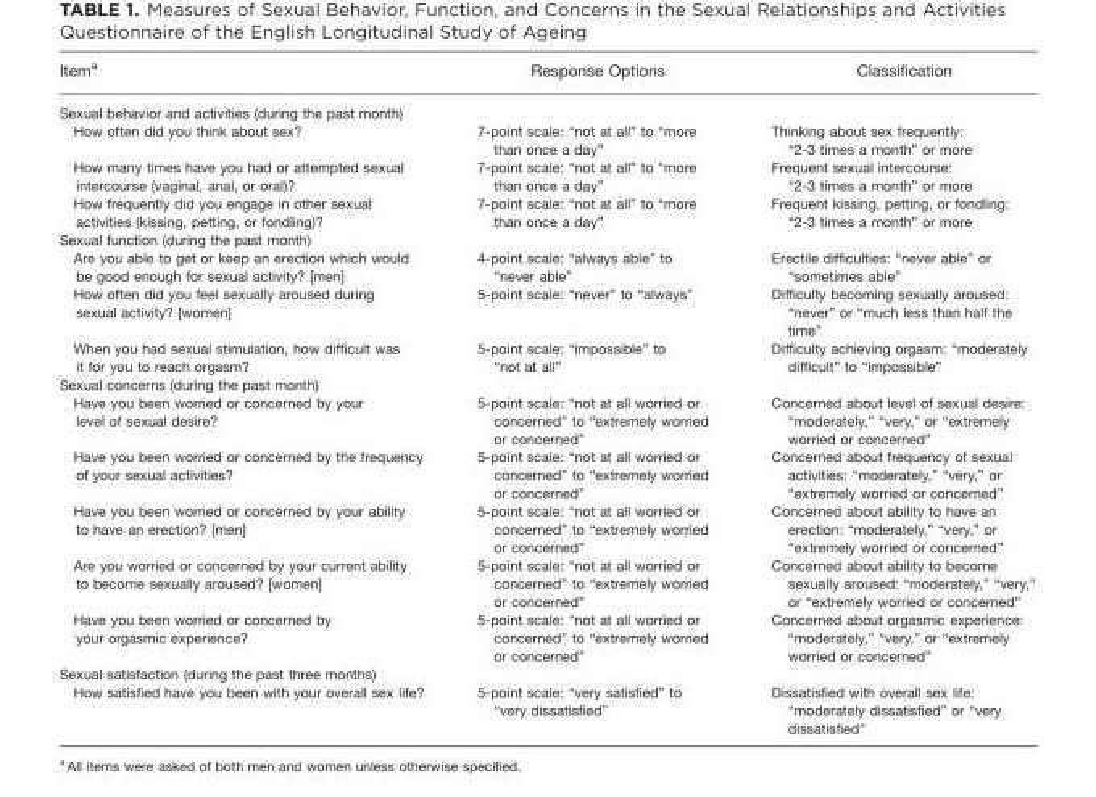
<table><thead><tr><td>Item<sup>a</sup></td><td>Response Options</td><td>Classification</td></tr></thead><tbody><tr><td colspan="3">Sexual behavior and activities (during the past month)</td></tr><tr><td>How often did you think about sex?</td><td>7-point scale: “not at all” to “more than once a day”</td><td>Thinking about sex frequently: “2-3 times a month” or more</td></tr><tr><td>How many times have you had or attempted sexual intercourse (vaginal, anal, or oral)?</td><td>7-point scale: “not at all” to “more than once a day”</td><td>Frequent sexual intercourse: “2-3 times a month” or more</td></tr><tr><td>How frequently did you engage in other sexual activities (kissing, petting, or fondling)?</td><td>7-point scale: “not at all” to “more than once a day”</td><td>Frequent kissing, petting, or fondling: “2-3 times a month” or more</td></tr><tr><td colspan="3">Sexual function (during the past month)</td></tr><tr><td>Are you able to get or keep an erection which would be good enough for sexual activity? [men]</td><td>4-point scale: “always able” to “never able”</td><td>Erectile difficulties: “never able” or “sometimes able”</td></tr><tr><td>How often did you feel sexually aroused during sexual activity? [women]</td><td>5-point scale: “never” to “always”</td><td>Difficulty becoming sexually aroused: “never” or “much less than half the time”</td></tr><tr><td>When you had sexual stimulation, how difficult was it for you to reach orgasm?</td><td>5-point scale: “impossible” to “not at all”</td><td>Difficulty achieving orgasm: “moderately difficult” to “impossible”</td></tr><tr><td colspan="3">Sexual concerns (during the past month)</td></tr><tr><td>Have you been worried or concerned by your level of sexual desire?</td><td>5-point scale: “not at all worried or concerned” to “extremely worried or concerned”</td><td>Concerned about level of sexual desire: “moderately,” “very,” or “extremely worried or concerned”</td></tr><tr><td>Have you been worried or concerned by the frequency of your sexual activities?</td><td>5-point scale: “not at all worried or concerned” to “extremely worried or concerned”</td><td>Concerned about frequency of sexual activities: “moderately,” “very,” or “extremely worried or concerned”</td></tr><tr><td>Have you been worried or concerned by your ability to have an erection? [men]</td><td>5-point scale: “not at all worried or concerned” to “extremely worried or concerned”</td><td>Concerned about ability to have an erection: “moderately,” “very,” or “extremely worried or concerned”</td></tr><tr><td>Are you worried or concerned by your current ability to become sexually aroused? [women]</td><td>5-point scale: “not at all worried or concerned” to “extremely worried or concerned”</td><td>Concerned about ability to become sexually aroused: “moderately,” “very,” or “extremely worried or concerned”</td></tr><tr><td>Have you been worried or concerned by your orgasmic experience?</td><td>5-point scale: “not at all worried or concerned” to “extremely worried or concerned”</td><td>Concerned about orgasmic experience: “moderately,” “very,” or “extremely worried or concerned”</td></tr><tr><td colspan="3">Sexual satisfaction (during the past three months)</td></tr><tr><td>How satisfied have you been with your overall sex life?</td><td>5-point scale: “very satisfied” to “very dissatisfied”</td><td>Dissatisfied with overall sex life: “moderately dissatisfied” or “very dissatisfied”</td></tr></tbody></table>